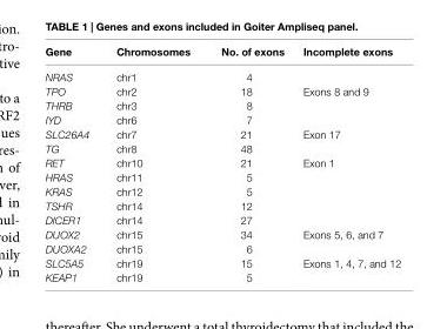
<table><thead><tr><td>Gene</td><td>Chromosomes</td><td>No. of exons</td><td>Incomplete exons</td></tr></thead><tbody><tr><td>NRAS</td><td>chr1</td><td>4</td><td></td></tr><tr><td>TPO</td><td>chr2</td><td>18</td><td>Exons 8 and 9</td></tr><tr><td>THRB</td><td>chr3</td><td>8</td><td></td></tr><tr><td>IYD</td><td>chr6</td><td>7</td><td></td></tr><tr><td>SLC26A4</td><td>chr7</td><td>21</td><td>Exon 17</td></tr><tr><td>TG</td><td>chr8</td><td>48</td><td></td></tr><tr><td>RET</td><td>chr10</td><td>21</td><td>Exon 1</td></tr><tr><td>HRAS</td><td>chr11</td><td>5</td><td></td></tr><tr><td>KRAS</td><td>chr12</td><td>5</td><td></td></tr><tr><td>TSHR</td><td>chr14</td><td>12</td><td></td></tr><tr><td>DICER1</td><td>chr14</td><td>27</td><td></td></tr><tr><td>DUOX2</td><td>chr15</td><td>34</td><td>Exons 5, 6, and 7</td></tr><tr><td>DUOXA2</td><td>chr15</td><td>6</td><td></td></tr><tr><td>SLC5A5</td><td>chr19</td><td>15</td><td>Exons 1, 4, 7, and 12</td></tr><tr><td>KEAP1</td><td>chr19</td><td>5</td><td></td></tr></tbody></table>